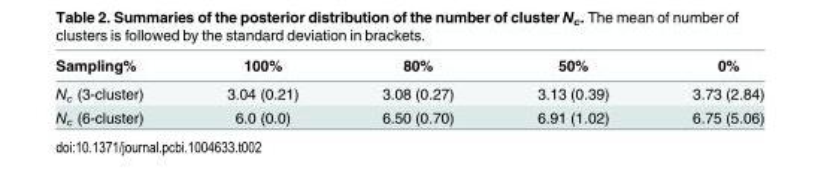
<table><thead><tr><td>Sampling%</td><td>100%</td><td>80%</td><td>50%</td><td>0%</td></tr></thead><tbody><tr><td>N<sub>c</sub> (3-cluster)</td><td>3.04 (0.21)</td><td>3.08 (0.27)</td><td>3.13 (0.39)</td><td>3.73 (2.84)</td></tr><tr><td>N<sub>c</sub> (6-cluster)</td><td>6.0 (0.0)</td><td>6.50 (0.70)</td><td>6.91 (1.02)</td><td>6.75 (5.06)</td></tr></tbody></table>